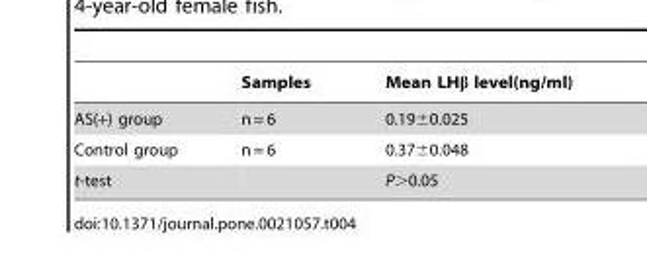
<table><thead><tr><td></td><td>Samples</td><td>Mean LHβ level(ng/ml)</td></tr></thead><tbody><tr><td>AS(+) group</td><td>n = 6</td><td>0.19±0.025</td></tr><tr><td>Control group</td><td>n = 6</td><td>0.37±0.048</td></tr><tr><td>t-test</td><td></td><td>P&gt;0.05</td></tr></tbody></table>